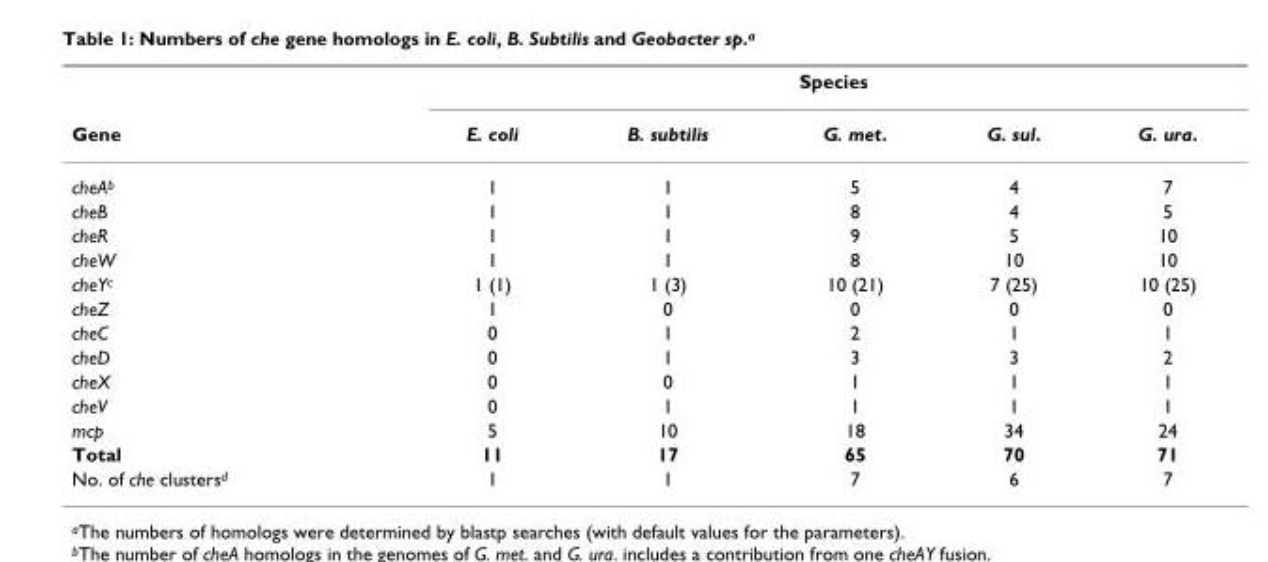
<table><thead><tr><td rowspan="2">Gene</td><td colspan="5">Species</td></tr><tr><td>E. coli</td><td>B. subtilis</td><td>G. met.</td><td>G. sul.</td><td>G. ura.</td></tr></thead><tbody><tr><td>cheA<sup>b</sup></td><td>1</td><td>1</td><td>5</td><td>4</td><td>7</td></tr><tr><td>cheB</td><td>1</td><td>1</td><td>8</td><td>4</td><td>5</td></tr><tr><td>cheR</td><td>1</td><td>1</td><td>9</td><td>5</td><td>10</td></tr><tr><td>cheW</td><td>1</td><td>1</td><td>8</td><td>10</td><td>10</td></tr><tr><td>cheY<sup>c</sup></td><td>1 (1)</td><td>1 (3)</td><td>10 (21)</td><td>7 (25)</td><td>10 (25)</td></tr><tr><td>cheZ</td><td>1</td><td>0</td><td>0</td><td>0</td><td>0</td></tr><tr><td>cheC</td><td>0</td><td>1</td><td>2</td><td>1</td><td>1</td></tr><tr><td>cheD</td><td>0</td><td>1</td><td>3</td><td>3</td><td>2</td></tr><tr><td>cheX</td><td>0</td><td>0</td><td>1</td><td>1</td><td>1</td></tr><tr><td>cheV</td><td>0</td><td>1</td><td>1</td><td>1</td><td>1</td></tr><tr><td>mcp</td><td>5</td><td>10</td><td>18</td><td>34</td><td>24</td></tr><tr><td>Total</td><td>11</td><td>17</td><td>65</td><td>70</td><td>71</td></tr><tr><td>No. of che clusters<sup>d</sup></td><td>1</td><td>1</td><td>7</td><td>6</td><td>7</td></tr></tbody></table>